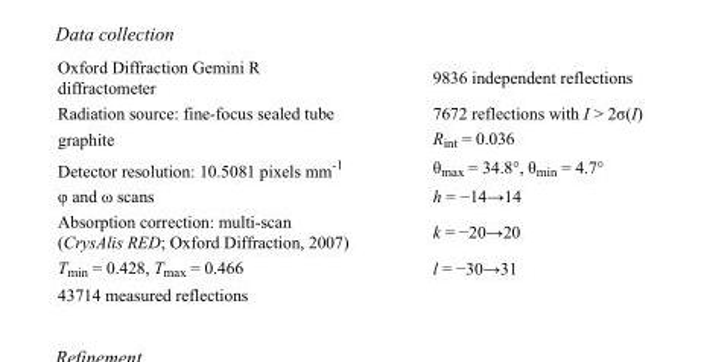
<table><tbody><tr><td>Oxford Diffraction Gemini R diffractometer</td><td>9836 independent reflections</td></tr><tr><td>Radiation source: fine-focus sealed tube</td><td>7672 reflections with I &gt; 2σ(I)</td></tr><tr><td>graphite</td><td>R<sub>int</sub> = 0.036</td></tr><tr><td>Detector resolution: 10.5081 pixels mm<sup>-1</sup></td><td>θ<sub>max</sub> = 34.8°, θ<sub>min</sub> = 4.7°</td></tr><tr><td>φ and ω scans</td><td>h = −14→14</td></tr><tr><td>Absorption correction: multi-scan (CrysAlis RED; Oxford Diffraction, 2007)</td><td>k = −20→20</td></tr><tr><td>T<sub>min</sub> = 0.428, T<sub>max</sub> = 0.466</td><td>l = −30→31</td></tr><tr><td>43714 measured reflections</td><td></td></tr></tbody></table>